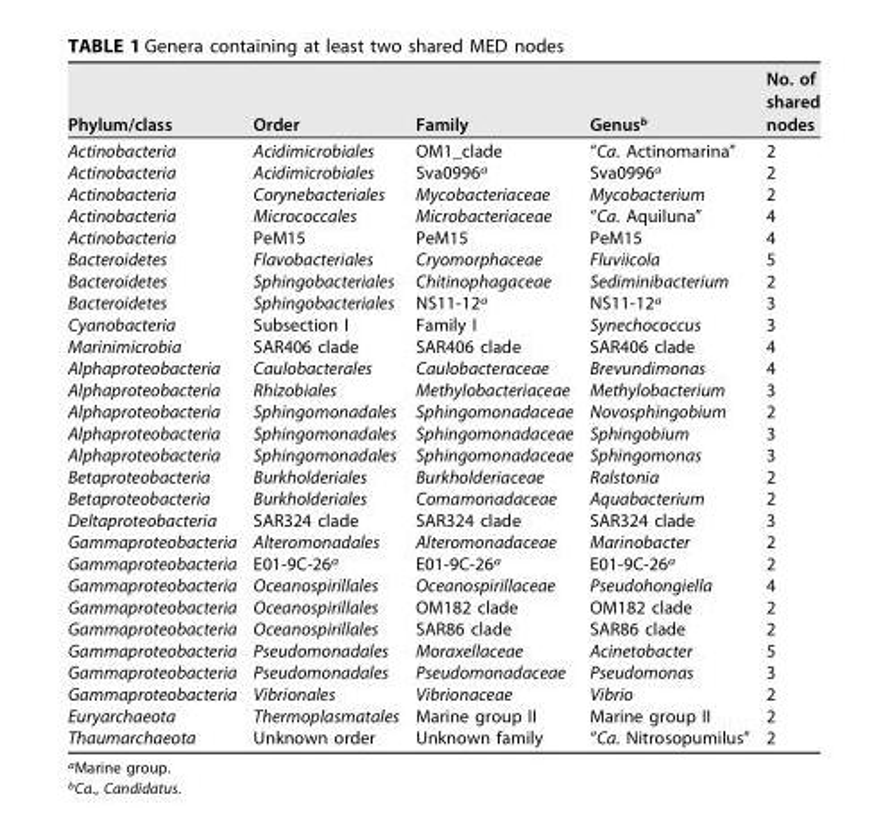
<table><thead><tr><td>Phylum/class</td><td>Order</td><td>Family</td><td>Genus<sup>b</sup></td><td>No. of shared nodes</td></tr></thead><tbody><tr><td>Actinobacteria</td><td>Acidimicrobiales</td><td>OM1_clade</td><td>“Ca. Actinomarina”</td><td>2</td></tr><tr><td>Actinobacteria</td><td>Acidimicrobiales</td><td>Sva0996<sup>a</sup></td><td>Sva0996<sup>a</sup></td><td>2</td></tr><tr><td>Actinobacteria</td><td>Corynebacteriales</td><td>Mycobacteriaceae</td><td>Mycobacterium</td><td>2</td></tr><tr><td>Actinobacteria</td><td>Micrococcales</td><td>Microbacteriaceae</td><td>“Ca. Aquiluna”</td><td>4</td></tr><tr><td>Actinobacteria</td><td>PeM15</td><td>PeM15</td><td>PeM15</td><td>4</td></tr><tr><td>Bacteroidetes</td><td>Flavobacteriales</td><td>Cryomorphaceae</td><td>Fluviicola</td><td>5</td></tr><tr><td>Bacteroidetes</td><td>Sphingobacteriales</td><td>Chitinophagaceae</td><td>Sediminibacterium</td><td>2</td></tr><tr><td>Bacteroidetes</td><td>Sphingobacteriales</td><td>NS11-12<sup>a</sup></td><td>NS11-12<sup>a</sup></td><td>3</td></tr><tr><td>Cyanobacteria</td><td>Subsection I</td><td>Family I</td><td>Synechococcus</td><td>3</td></tr><tr><td>Marinimicrobia</td><td>SAR406 clade</td><td>SAR406 clade</td><td>SAR406 clade</td><td>4</td></tr><tr><td>Alphaproteobacteria</td><td>Caulobacterales</td><td>Caulobacteraceae</td><td>Brevundimonas</td><td>4</td></tr><tr><td>Alphaproteobacteria</td><td>Rhizobiales</td><td>Methylobacteriaceae</td><td>Methylobacterium</td><td>3</td></tr><tr><td>Alphaproteobacteria</td><td>Sphingomonadales</td><td>Sphingomonadaceae</td><td>Novosphingobium</td><td>2</td></tr><tr><td>Alphaproteobacteria</td><td>Sphingomonadales</td><td>Sphingomonadaceae</td><td>Sphingobium</td><td>3</td></tr><tr><td>Alphaproteobacteria</td><td>Sphingomonadales</td><td>Sphingomonadaceae</td><td>Sphingomonas</td><td>3</td></tr><tr><td>Betaproteobacteria</td><td>Burkholderiales</td><td>Burkholderiaceae</td><td>Ralstonia</td><td>2</td></tr><tr><td>Betaproteobacteria</td><td>Burkholderiales</td><td>Comamonadaceae</td><td>Aquabacterium</td><td>2</td></tr><tr><td>Deltaproteobacteria</td><td>SAR324 clade</td><td>SAR324 clade</td><td>SAR324 clade</td><td>3</td></tr><tr><td>Gammaproteobacteria</td><td>Alteromonadales</td><td>Alteromonadaceae</td><td>Marinobacter</td><td>2</td></tr><tr><td>Gammaproteobacteria</td><td>E01-9C-26<sup>a</sup></td><td>E01-9C-26<sup>a</sup></td><td>E01-9C-26<sup>a</sup></td><td>2</td></tr><tr><td>Gammaproteobacteria</td><td>Oceanospirillales</td><td>Oceanospirillaceae</td><td>Pseudohongiella</td><td>4</td></tr><tr><td>Gammaproteobacteria</td><td>Oceanospirillales</td><td>OM182 clade</td><td>OM182 clade</td><td>2</td></tr><tr><td>Gammaproteobacteria</td><td>Oceanospirillales</td><td>SAR86 clade</td><td>SAR86 clade</td><td>2</td></tr><tr><td>Gammaproteobacteria</td><td>Pseudomonadales</td><td>Moraxellaceae</td><td>Acinetobacter</td><td>5</td></tr><tr><td>Gammaproteobacteria</td><td>Pseudomonadales</td><td>Pseudomonadaceae</td><td>Pseudomonas</td><td>3</td></tr><tr><td>Gammaproteobacteria</td><td>Vibrionales</td><td>Vibrionaceae</td><td>Vibrio</td><td>2</td></tr><tr><td>Euryarchaeota</td><td>Thermoplasmatales</td><td>Marine group II</td><td>Marine group II</td><td>2</td></tr><tr><td>Thaumarchaeota</td><td>Unknown order</td><td>Unknown family</td><td>“Ca. Nitrosopumilus”</td><td>2</td></tr></tbody></table>